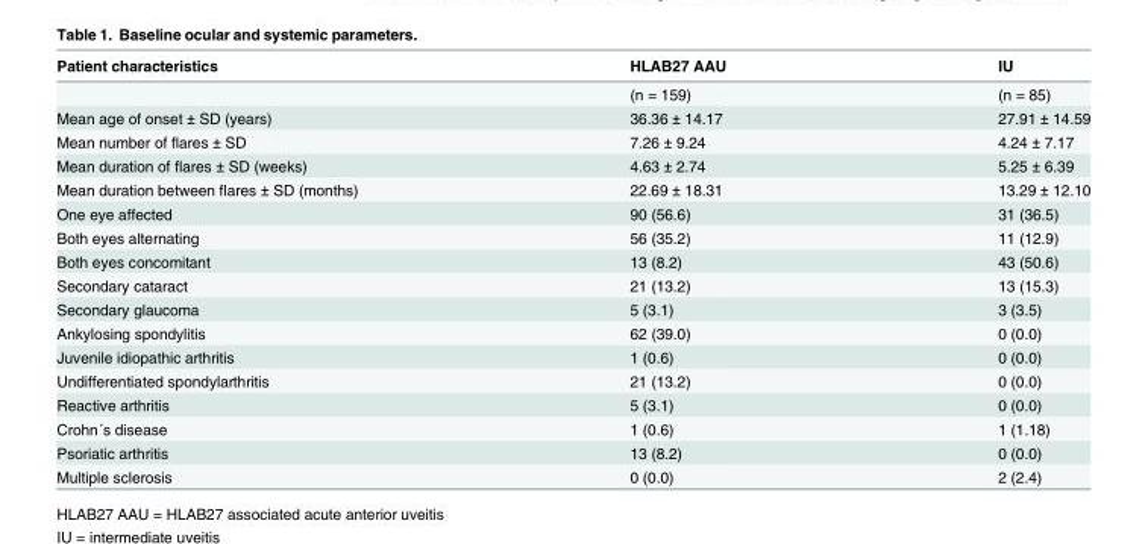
<table><thead><tr><td>Patient characteristics</td><td>HLAB27 AAU</td><td>IU</td></tr></thead><tbody><tr><td></td><td>(n = 159)</td><td>(n = 85)</td></tr><tr><td>Mean age of onset ± SD (years)</td><td>36.36 ± 14.17</td><td>27.91 ± 14.59</td></tr><tr><td>Mean number of flares ± SD</td><td>7.26 ± 9.24</td><td>4.24 ± 7.17</td></tr><tr><td>Mean duration of flares ± SD (weeks)</td><td>4.63 ± 2.74</td><td>5.25 ± 6.39</td></tr><tr><td>Mean duration between flares ± SD (months)</td><td>22.69 ± 18.31</td><td>13.29 ± 12.10</td></tr><tr><td>One eye affected</td><td>90 (56.6)</td><td>31 (36.5)</td></tr><tr><td>Both eyes alternating</td><td>56 (35.2)</td><td>11 (12.9)</td></tr><tr><td>Both eyes concomitant</td><td>13 (8.2)</td><td>43 (50.6)</td></tr><tr><td>Secondary cataract</td><td>21 (13.2)</td><td>13 (15.3)</td></tr><tr><td>Secondary glaucoma</td><td>5 (3.1)</td><td>3 (3.5)</td></tr><tr><td>Ankylosing spondylitis</td><td>62 (39.0)</td><td>0 (0.0)</td></tr><tr><td>Juvenile idiopathic arthritis</td><td>1 (0.6)</td><td>0 (0.0)</td></tr><tr><td>Undifferentiated spondylarthritis</td><td>21 (13.2)</td><td>0 (0.0)</td></tr><tr><td>Reactive arthritis</td><td>5 (3.1)</td><td>0 (0.0)</td></tr><tr><td>Crohn´s disease</td><td>1 (0.6)</td><td>1 (1.18)</td></tr><tr><td>Psoriatic arthritis</td><td>13 (8.2)</td><td>0 (0.0)</td></tr><tr><td>Multiple sclerosis</td><td>0 (0.0)</td><td>2 (2.4)</td></tr></tbody></table>